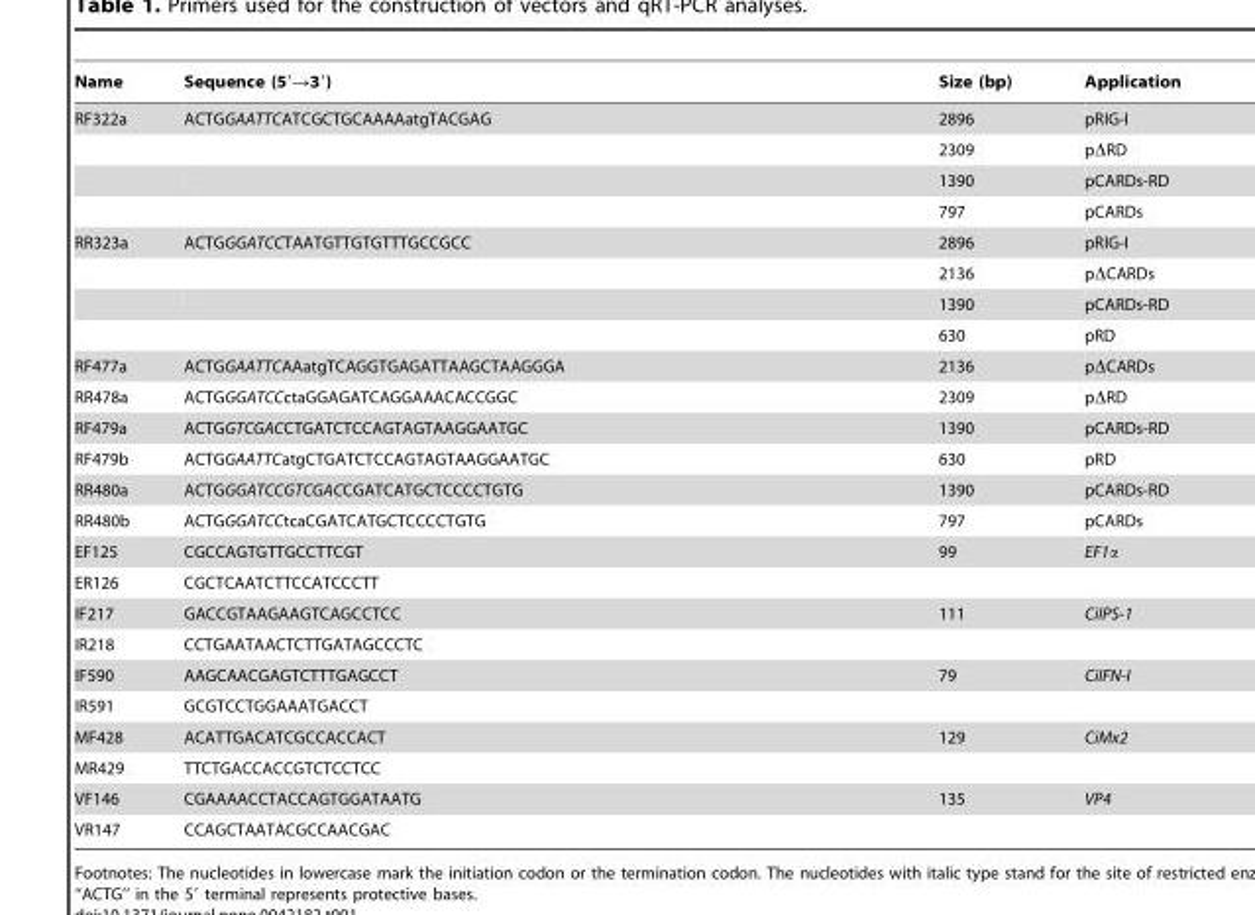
<table><thead><tr><td>Name</td><td>Sequence (5′→3′)</td><td>Size (bp)</td><td>Application</td></tr></thead><tbody><tr><td rowspan="4">RF322a</td><td>ACTGGAATTCATCGCTGCAAAAatgTACGAG</td><td>2896</td><td>pRIG-I</td></tr><tr><td></td><td>2309</td><td>pΔRD</td></tr><tr><td></td><td>1390</td><td>pCARDs-RD</td></tr><tr><td></td><td>797</td><td>pCARDs</td></tr><tr><td rowspan="4">RR323a</td><td>ACTGGGATCCTAATGTTGTGTTTGCCGCC</td><td>2896</td><td>pRIG-I</td></tr><tr><td></td><td>2136</td><td>pΔCARDs</td></tr><tr><td></td><td>1390</td><td>pCARDs-RD</td></tr><tr><td></td><td>630</td><td>pRD</td></tr><tr><td>RF477a</td><td>ACTGGAATTCAAatgTCAGGTGAGATTAAGCTAAGGGA</td><td>2136</td><td>pΔCARDs</td></tr><tr><td>RR478a</td><td>ACTGGGATCCctaGGAGATCAGGAAACACCGGC</td><td>2309</td><td>pΔRD</td></tr><tr><td>RF479a</td><td>ACTGGTCGACCTGATCTCCAGTAGTAAGGAATGC</td><td>1390</td><td>pCARDs-RD</td></tr><tr><td>RF479b</td><td>ACTGGAATTCatgCTGATCTCCAGTAGTAAGGAATGC</td><td>630</td><td>pRD</td></tr><tr><td>RR480a</td><td>ACTGGGATCCGTCGACCGATCATGCTCCCCTGTG</td><td>1390</td><td>pCARDs-RD</td></tr><tr><td>RR480b</td><td>ACTGGGATCCtcaCGATCATGCTCCCCTGTG</td><td>797</td><td>pCARDs</td></tr><tr><td>EF125</td><td>CGCCAGTGTTGCCTTCGT</td><td>99</td><td>EF1α</td></tr><tr><td>ER126</td><td>CGCTCAATCTTCCATCCCTT</td><td></td><td></td></tr><tr><td>IF217</td><td>GACCGTAAGAAGTCAGCCTCC</td><td>111</td><td>CiIPS-1</td></tr><tr><td>IR218</td><td>CCTGAATAACTCTTGATAGCCCTC</td><td></td><td></td></tr><tr><td>IF590</td><td>AAGCAACGAGTCTTTGAGCCT</td><td>79</td><td>CiIFN-I</td></tr><tr><td>IR591</td><td>GCGTCCTGGAAATGACCT</td><td></td><td></td></tr><tr><td>MF428</td><td>ACATTGACATCGCCACCACT</td><td>129</td><td>CiMx2</td></tr><tr><td>MR429</td><td>TTCTGACCACCGTCTCCTCC</td><td></td><td></td></tr><tr><td>VF146</td><td>CGAAAACCTACCAGTGGATAATG</td><td>135</td><td>VP4</td></tr><tr><td>VR147</td><td>CCAGCTAATACGCCAACGAC</td><td></td><td></td></tr></tbody></table>